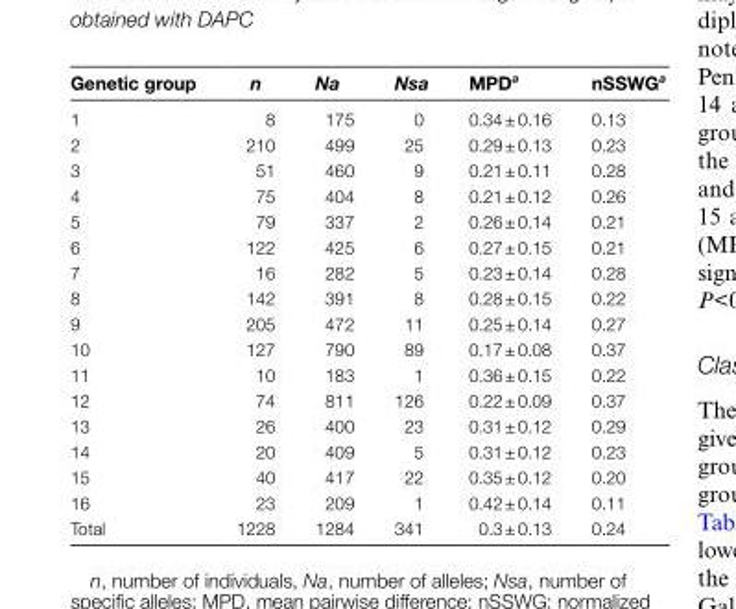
<table><thead><tr><td>Genetic group</td><td>n</td><td>Na</td><td>Nsa</td><td>MPD<sup>a</sup></td><td>nSSWG<sup>a</sup></td></tr></thead><tbody><tr><td>1</td><td>8</td><td>175</td><td>0</td><td>0.34 ± 0.16</td><td>0.13</td></tr><tr><td>2</td><td>210</td><td>499</td><td>25</td><td>0.29 ± 0.13</td><td>0.23</td></tr><tr><td>3</td><td>51</td><td>460</td><td>9</td><td>0.21 ± 0.11</td><td>0.28</td></tr><tr><td>4</td><td>75</td><td>404</td><td>8</td><td>0.21 ± 0.12</td><td>0.26</td></tr><tr><td>5</td><td>79</td><td>337</td><td>2</td><td>0.26 ± 0.14</td><td>0.21</td></tr><tr><td>6</td><td>122</td><td>425</td><td>6</td><td>0.27 ± 0.15</td><td>0.21</td></tr><tr><td>7</td><td>16</td><td>282</td><td>5</td><td>0.23 ± 0.14</td><td>0.28</td></tr><tr><td>8</td><td>142</td><td>391</td><td>8</td><td>0.28 ± 0.15</td><td>0.22</td></tr><tr><td>9</td><td>205</td><td>472</td><td>11</td><td>0.25 ± 0.14</td><td>0.27</td></tr><tr><td>10</td><td>127</td><td>790</td><td>89</td><td>0.17 ± 0.08</td><td>0.37</td></tr><tr><td>11</td><td>10</td><td>183</td><td>1</td><td>0.36 ± 0.15</td><td>0.22</td></tr><tr><td>12</td><td>74</td><td>811</td><td>126</td><td>0.22 ± 0.09</td><td>0.37</td></tr><tr><td>13</td><td>26</td><td>400</td><td>23</td><td>0.31 ± 0.12</td><td>0.29</td></tr><tr><td>14</td><td>20</td><td>409</td><td>5</td><td>0.31 ± 0.12</td><td>0.23</td></tr><tr><td>15</td><td>40</td><td>417</td><td>22</td><td>0.35 ± 0.12</td><td>0.20</td></tr><tr><td>16</td><td>23</td><td>209</td><td>1</td><td>0.42 ± 0.14</td><td>0.11</td></tr><tr><td>Total</td><td>1228</td><td>1284</td><td>341</td><td>0.3 ± 0.13</td><td>0.24</td></tr></tbody></table>